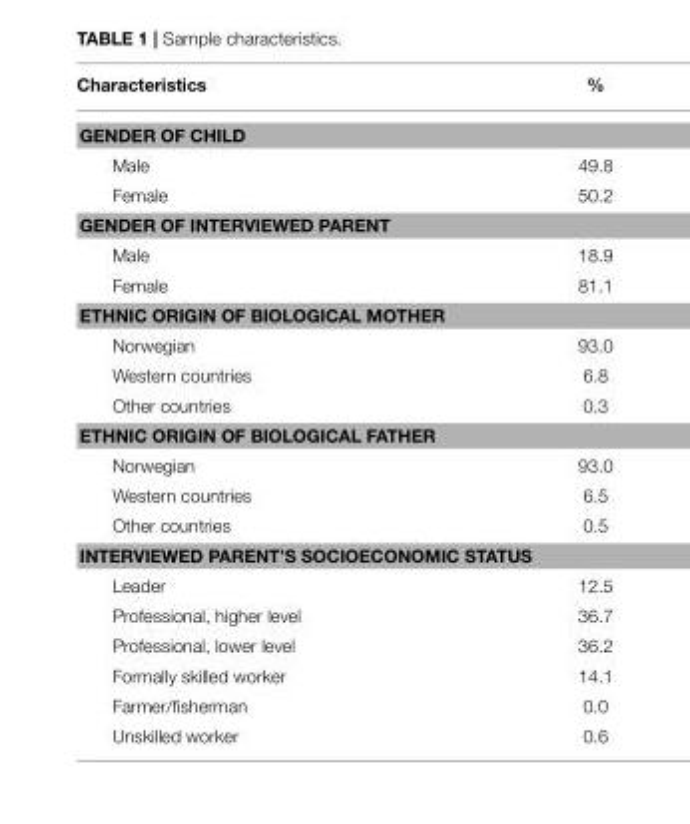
<table><thead><tr><td>Characteristics</td><td>%</td></tr></thead><tbody><tr><td colspan="2">GENDER OF CHILD</td></tr><tr><td>Male</td><td>49.8</td></tr><tr><td>Female</td><td>50.2</td></tr><tr><td colspan="2">GENDER OF INTERVIEWED PARENT</td></tr><tr><td>Male</td><td>18.9</td></tr><tr><td>Female</td><td>81.1</td></tr><tr><td colspan="2">ETHNIC ORIGIN OF BIOLOGICAL MOTHER</td></tr><tr><td>Norwegian</td><td>93.0</td></tr><tr><td>Western countries</td><td>6.8</td></tr><tr><td>Other countries</td><td>0.3</td></tr><tr><td colspan="2">ETHNIC ORIGIN OF BIOLOGICAL FATHER</td></tr><tr><td>Norwegian</td><td>93.0</td></tr><tr><td>Western countries</td><td>6.5</td></tr><tr><td>Other countries</td><td>0.5</td></tr><tr><td colspan="2">INTERVIEWED PARENT’S SOCIOECONOMIC STATUS</td></tr><tr><td>Leader</td><td>12.5</td></tr><tr><td>Professional, higher level</td><td>36.7</td></tr><tr><td>Professional, lower level</td><td>36.2</td></tr><tr><td>Formally skilled worker</td><td>14.1</td></tr><tr><td>Farmer/fisherman</td><td>0.0</td></tr><tr><td>Unskilled worker</td><td>0.6</td></tr></tbody></table>